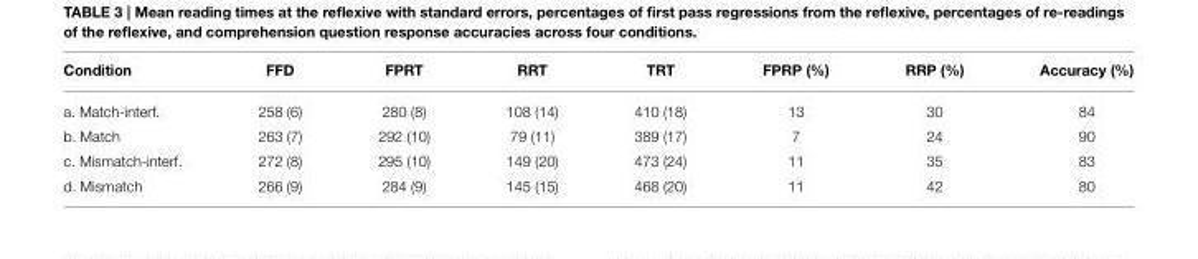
<table><thead><tr><td>Condition</td><td>FFD</td><td>FPRT</td><td>RRT</td><td>TRT</td><td>FPRP (%)</td><td>RRP (%)</td><td>Accuracy (%)</td></tr></thead><tbody><tr><td>a. Match-interf.</td><td>258 (6)</td><td>280 (8)</td><td>108 (14)</td><td>410 (18)</td><td>13</td><td>30</td><td>84</td></tr><tr><td>b. Match</td><td>263 (7)</td><td>292 (10)</td><td>79 (11)</td><td>389 (17)</td><td>7</td><td>24</td><td>90</td></tr><tr><td>c. Mismatch-interf.</td><td>272 (8)</td><td>295 (10)</td><td>149 (20)</td><td>473 (24)</td><td>11</td><td>35</td><td>83</td></tr><tr><td>d. Mismatch</td><td>266 (9)</td><td>284 (9)</td><td>145 (15)</td><td>468 (20)</td><td>11</td><td>42</td><td>80</td></tr></tbody></table>